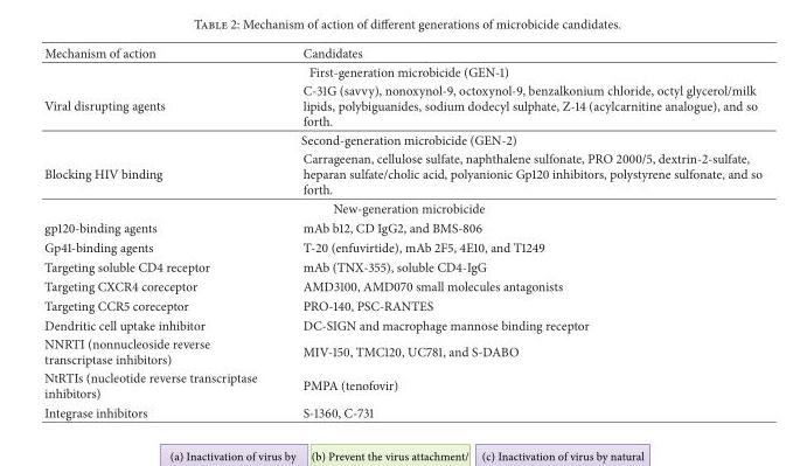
<table><thead><tr><td>Mechanism of action</td><td>Candidates</td></tr></thead><tbody><tr><td colspan="2">First-generation microbicide (GEN-1)</td></tr><tr><td>Viral disrupting agents</td><td>C-31G (savvy), nonoxynol-9, octoxynol-9, benzalkonium chloride, octyl glycerol/milk lipids, polybiguanides, sodium dodecyl sulphate, Z-14 (acylcarnitine analogue), and so forth.</td></tr><tr><td colspan="2">Second-generation microbicide (GEN-2)</td></tr><tr><td>Blocking HIV binding</td><td>Carrageenan, cellulose sulfate, naphthalene sulfonate, PRO 2000/5, dextrin-2-sulfate, heparan sulfate/cholic acid, polyanionic Gp120 inhibitors, polystyrene sulfonate, and so forth.</td></tr><tr><td colspan="2">New-generation microbicide</td></tr><tr><td>gp120-binding agents</td><td>mAb b12, CD IgG2, and BMS-806</td></tr><tr><td>Gp41-binding agents</td><td>T-20 (enfuvirtide), mAb 2F5, 4E10, and T1249</td></tr><tr><td>Targeting soluble CD4 receptor</td><td>mAb (TNX-355), soluble CD4-IgG</td></tr><tr><td>Targeting CXCR4 coreceptor</td><td>AMD3100, AMD070 small molecules antagonists</td></tr><tr><td>Targeting CCR5 coreceptor</td><td>PRO-140, PSC-RANTES</td></tr><tr><td>Dendritic cell uptake inhibitor</td><td>DC-SIGN and macrophage mannose binding receptor</td></tr><tr><td>NNRTI (nonnucleoside reverse transcriptase inhibitors)</td><td>MIV-150, TMC120, UC781, and S-DABO</td></tr><tr><td>NtRTIs (nucleotide reverse transcriptase inhibitors)</td><td>PMPA (tenofovir)</td></tr><tr><td>Integrase inhibitors</td><td>S-1360, C-731</td></tr></tbody></table>